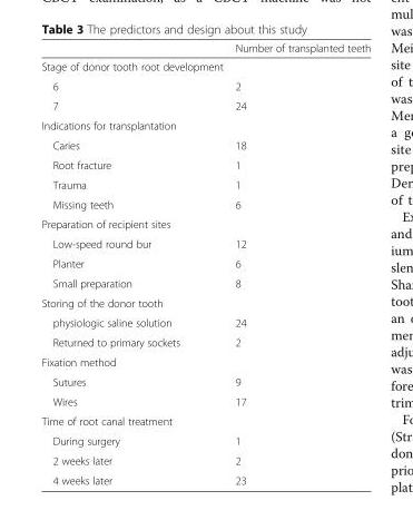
<table><thead><tr><td></td><td>Number of transplanted teeth</td></tr></thead><tbody><tr><td colspan="2">Stage of donor tooth root development</td></tr><tr><td>6</td><td>2</td></tr><tr><td>7</td><td>24</td></tr><tr><td colspan="2">Indications for transplantation</td></tr><tr><td>Caries</td><td>18</td></tr><tr><td>Root fracture</td><td>1</td></tr><tr><td>Trauma</td><td>1</td></tr><tr><td>Missing teeth</td><td>6</td></tr><tr><td colspan="2">Preparation of recipient sites</td></tr><tr><td>Low-speed round bur</td><td>12</td></tr><tr><td>Planter</td><td>6</td></tr><tr><td>Small preparation</td><td>8</td></tr><tr><td colspan="2">Storing of the donor tooth</td></tr><tr><td>physiologic saline solution</td><td>24</td></tr><tr><td>Returned to primary sockets</td><td>2</td></tr><tr><td colspan="2">Fixation method</td></tr><tr><td>Sutures</td><td>9</td></tr><tr><td>Wires</td><td>17</td></tr><tr><td colspan="2">Time of root canal treatment</td></tr><tr><td>During surgery</td><td>1</td></tr><tr><td>2 weeks later</td><td>2</td></tr><tr><td>4 weeks later</td><td>23</td></tr></tbody></table>